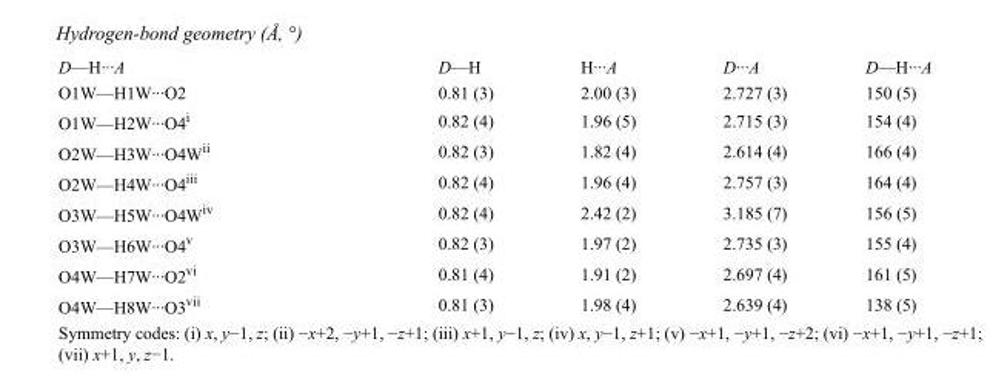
<table><tbody><tr><td>D—H···A</td><td>D—H</td><td>H···A</td><td>D···A</td><td>D—H···A</td></tr><tr><td>O1W—H1W···O2</td><td>0.81 (3)</td><td>2.00 (3)</td><td>2.727 (3)</td><td>150 (5)</td></tr><tr><td>O1W—H2W···O4<sup>i</sup></td><td>0.82 (4)</td><td>1.96 (5)</td><td>2.715 (3)</td><td>154 (4)</td></tr><tr><td>O2W—H3W···O4W<sup>ii</sup></td><td>0.82 (3)</td><td>1.82 (4)</td><td>2.614 (4)</td><td>166 (4)</td></tr><tr><td>O2W—H4W···O4<sup>iii</sup></td><td>0.82 (4)</td><td>1.96 (4)</td><td>2.757 (3)</td><td>164 (4)</td></tr><tr><td>O3W—H5W···O4W<sup>iv</sup></td><td>0.82 (4)</td><td>2.42 (2)</td><td>3.185 (7)</td><td>156 (5)</td></tr><tr><td>O3W—H6W···O4<sup>v</sup></td><td>0.82 (3)</td><td>1.97 (2)</td><td>2.735 (3)</td><td>155 (4)</td></tr><tr><td>O4W—H7W···O2<sup>vi</sup></td><td>0.81 (4)</td><td>1.91 (2)</td><td>2.697 (4)</td><td>161 (5)</td></tr><tr><td>O4W—H8W···O3<sup>vii</sup></td><td>0.81 (3)</td><td>1.98 (4)</td><td>2.639 (4)</td><td>138 (5)</td></tr></tbody></table>